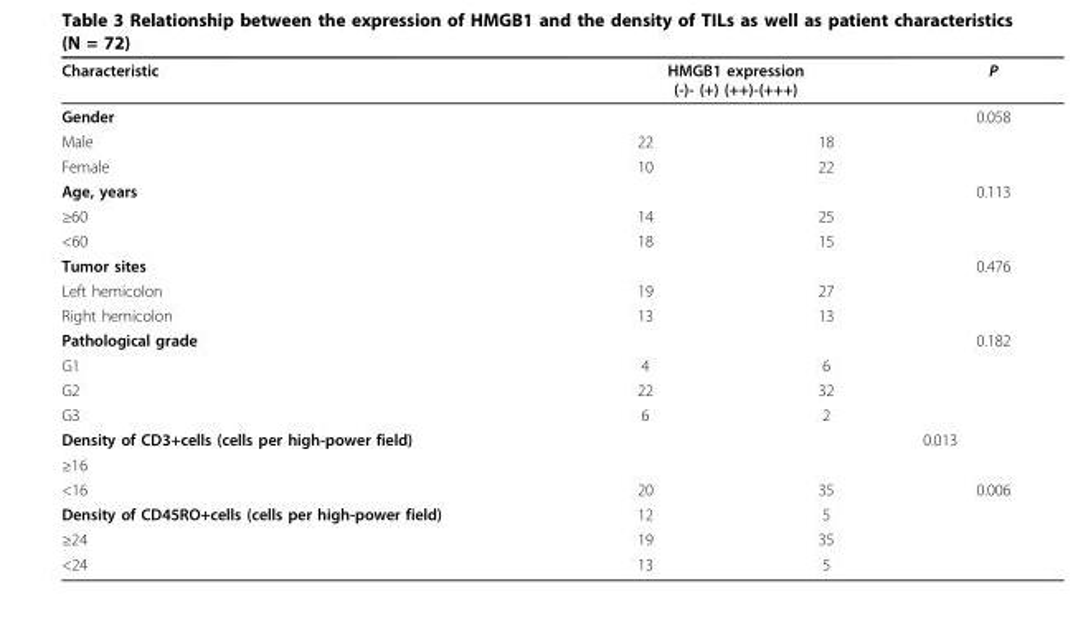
<table><thead><tr><td rowspan="2">Characteristic Gender</td><td colspan="2">HMGB1 expression (-)- (+) (++)-(+++)</td><td rowspan="2">P 0.058</td></tr><tr><td></td><td></td></tr></thead><tbody><tr><td>Male</td><td>22</td><td>18</td><td></td></tr><tr><td>Female</td><td>10</td><td>22</td><td></td></tr><tr><td>Age, years</td><td></td><td></td><td>0.113</td></tr><tr><td>≥60</td><td>14</td><td>25</td><td></td></tr><tr><td>&lt;60</td><td>18</td><td>15</td><td></td></tr><tr><td>Tumor sites</td><td></td><td></td><td>0.476</td></tr><tr><td>Left hemicolon</td><td>19</td><td>27</td><td></td></tr><tr><td>Right hemicolon</td><td>13</td><td>13</td><td></td></tr><tr><td>Pathological grade</td><td></td><td></td><td>0.182</td></tr><tr><td>G1</td><td>4</td><td>6</td><td></td></tr><tr><td>G2</td><td>22</td><td>32</td><td></td></tr><tr><td>G3</td><td>6</td><td>2</td><td></td></tr><tr><td>Density of CD3+cells (cells per high-power field)</td><td></td><td></td><td>0.013</td></tr><tr><td colspan="4">≥16</td></tr><tr><td>&lt;16</td><td>20</td><td>35</td><td>0.006</td></tr><tr><td>Density of CD45RO+cells (cells per high-power field)</td><td>12</td><td>5</td><td></td></tr><tr><td>≥24</td><td>19</td><td>35</td><td></td></tr><tr><td>&lt;24</td><td>13</td><td>5</td><td></td></tr></tbody></table>